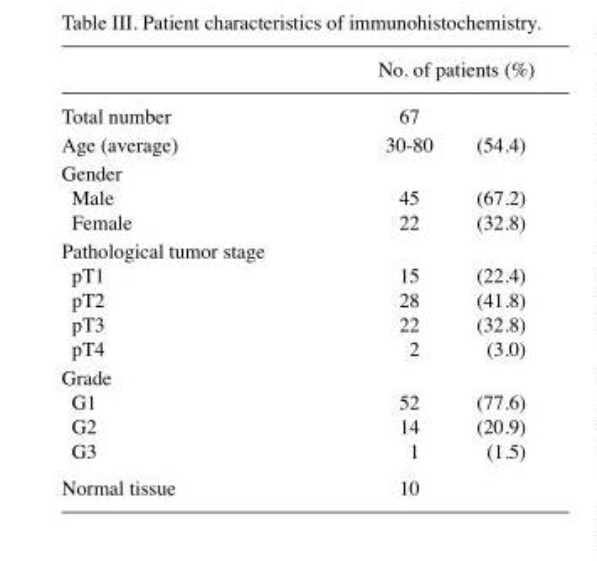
<table><thead><tr><td rowspan="2">Total number</td><td colspan="2">No. of patients (%)</td></tr><tr><td>67</td><td></td></tr></thead><tbody><tr><td>Age (average)</td><td>30-80</td><td>(54.4)</td></tr><tr><td colspan="3">Gender</td></tr><tr><td>Male</td><td>45</td><td>(67.2)</td></tr><tr><td>Female</td><td>22</td><td>(32.8)</td></tr><tr><td colspan="3">Pathological tumor stage</td></tr><tr><td>pT1</td><td>15</td><td>(22.4)</td></tr><tr><td>pT2</td><td>28</td><td>(41.8)</td></tr><tr><td>pT3</td><td>22</td><td>(32.8)</td></tr><tr><td>pT4</td><td>2</td><td>(3.0)</td></tr><tr><td colspan="3">Grade</td></tr><tr><td>G1</td><td>52</td><td>(77.6)</td></tr><tr><td>G2</td><td>14</td><td>(20.9)</td></tr><tr><td>G3</td><td>1</td><td>(1.5)</td></tr><tr><td>Normal tissue</td><td>10</td><td></td></tr></tbody></table>